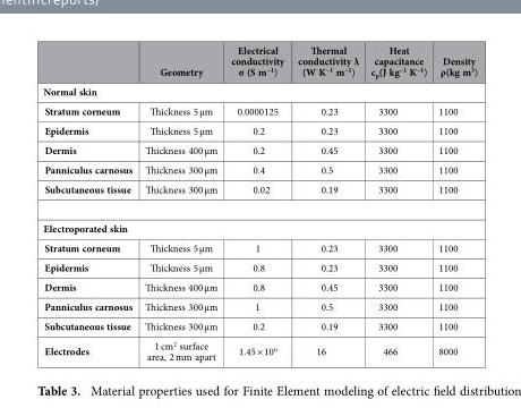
<table><thead><tr><td></td><td>Geometry</td><td>Electrical conductivity σ (S m<sup>−1</sup>)</td><td>Thermal conductivity λ (W K<sup>−1</sup> m<sup>−1</sup>)</td><td>Heat capacitance c<sub>p</sub>(J kg<sup>−1</sup> K<sup>−1</sup>)</td><td>Density ρ(kg m<sup>3</sup>)</td></tr></thead><tbody><tr><td colspan="6">Normal skin</td></tr><tr><td>Stratum corneum</td><td>Thickness 5 μm</td><td>0.0000125</td><td>0.23</td><td>3300</td><td>1100</td></tr><tr><td>Epidermis</td><td>Thickness 5 μm</td><td>0.2</td><td>0.23</td><td>3300</td><td>1100</td></tr><tr><td>Dermis</td><td>Thickness 400 μm</td><td>0.2</td><td>0.45</td><td>3300</td><td>1100</td></tr><tr><td>Panniculus carnosus</td><td>Thickness 300 μm</td><td>0.4</td><td>0.5</td><td>3300</td><td>1100</td></tr><tr><td>Subcutaneous tissue</td><td>Thickness 300 μm</td><td>0.02</td><td>0.19</td><td>3300</td><td>1100</td></tr><tr><td colspan="6">Electroporated skin</td></tr><tr><td>Stratum corneum</td><td>Thickness 5 μm</td><td>1</td><td>0.23</td><td>3300</td><td>1100</td></tr><tr><td>Epidermis</td><td>Thickness 5 μm</td><td>0.8</td><td>0.23</td><td>3300</td><td>1100</td></tr><tr><td>Dermis</td><td>Thickness 400 μm</td><td>0.8</td><td>0.45</td><td>3300</td><td>1100</td></tr><tr><td>Panniculus carnosus</td><td>Thickness 300 μm</td><td>1</td><td>0.5</td><td>3300</td><td>1100</td></tr><tr><td>Subcutaneous tissue</td><td>Thickness 300 μm</td><td>0.2</td><td>0.19</td><td>3300</td><td>1100</td></tr><tr><td>Electrodes</td><td>1 cm<sup>2</sup> surface area, 2 mm apart</td><td>1.45 × 10<sup>6</sup></td><td>16</td><td>466</td><td>8000</td></tr></tbody></table>